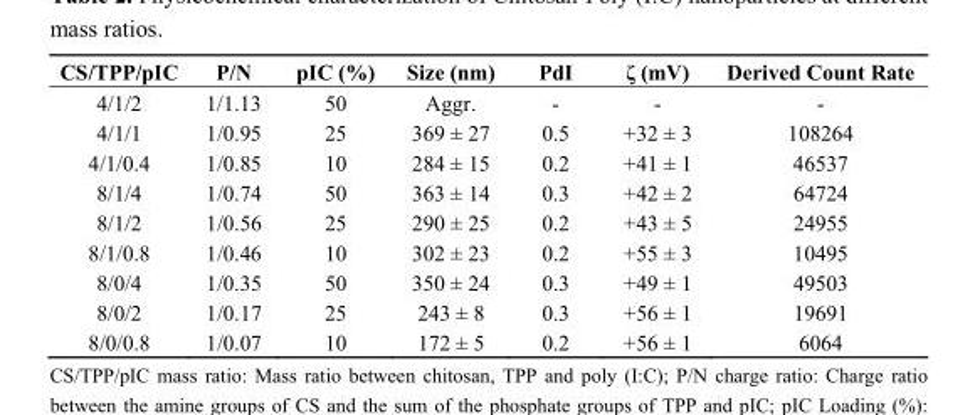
<table><thead><tr><td>CS/TPP/pIC</td><td>P/N</td><td>pIC (%)</td><td>Size (nm)</td><td>PdI</td><td>ζ (mV)</td><td>Derived Count Rate</td></tr></thead><tbody><tr><td>4/1/2</td><td>1/1.13</td><td>50</td><td>Aggr.</td><td>-</td><td>-</td><td>-</td></tr><tr><td>4/1/1</td><td>1/0.95</td><td>25</td><td>369 ± 27</td><td>0.5</td><td>+32 ± 3</td><td>108264</td></tr><tr><td>4/1/0.4</td><td>1/0.85</td><td>10</td><td>284 ± 15</td><td>0.2</td><td>+41 ± 1</td><td>46537</td></tr><tr><td>8/1/4</td><td>1/0.74</td><td>50</td><td>363 ± 14</td><td>0.3</td><td>+42 ± 2</td><td>64724</td></tr><tr><td>8/1/2</td><td>1/0.56</td><td>25</td><td>290 ± 25</td><td>0.2</td><td>+43 ± 5</td><td>24955</td></tr><tr><td>8/1/0.8</td><td>1/0.46</td><td>10</td><td>302 ± 23</td><td>0.2</td><td>+55 ± 3</td><td>10495</td></tr><tr><td>8/0/4</td><td>1/0.35</td><td>50</td><td>350 ± 24</td><td>0.3</td><td>+49 ± 1</td><td>49503</td></tr><tr><td>8/0/2</td><td>1/0.17</td><td>25</td><td>243 ± 8</td><td>0.3</td><td>+56 ± 1</td><td>19691</td></tr><tr><td>8/0/0.8</td><td>1/0.07</td><td>10</td><td>172 ± 5</td><td>0.2</td><td>+56 ± 1</td><td>6064</td></tr></tbody></table>